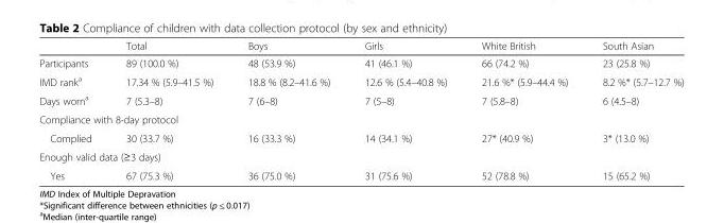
<table><thead><tr><td></td><td>Total</td><td>Boys</td><td>Girls</td><td>White British</td><td>South Asian</td></tr></thead><tbody><tr><td>Participants</td><td>89 (100.0 %)</td><td>48 (53.9 %)</td><td>41 (46.1 %)</td><td>66 (74.2 %)</td><td>23 (25.8 %)</td></tr><tr><td>IMD rank<sup>a</sup></td><td>17.34 % (5.9–41.5 %)</td><td>18.8 % (8.2–41.6 %)</td><td>12.6 % (5.4–40.8 %)</td><td>21.6 %* (5.9–44.4 %)</td><td>8.2 %* (5.7–12.7 %)</td></tr><tr><td>Days worn<sup>a</sup></td><td>7 (5.3–8)</td><td>7 (6–8)</td><td>7 (5–8)</td><td>7 (5.8–8)</td><td>6 (4.5–8)</td></tr><tr><td colspan="6">Compliance with 8-day protocol</td></tr><tr><td>Complied</td><td>30 (33.7 %)</td><td>16 (33.3 %)</td><td>14 (34.1 %)</td><td>27* (40.9 %)</td><td>3* (13.0 %)</td></tr><tr><td colspan="6">Enough valid data (≥3 days)</td></tr><tr><td>Yes</td><td>67 (75.3 %)</td><td>36 (75.0 %)</td><td>31 (75.6 %)</td><td>52 (78.8 %)</td><td>15 (65.2 %)</td></tr></tbody></table>